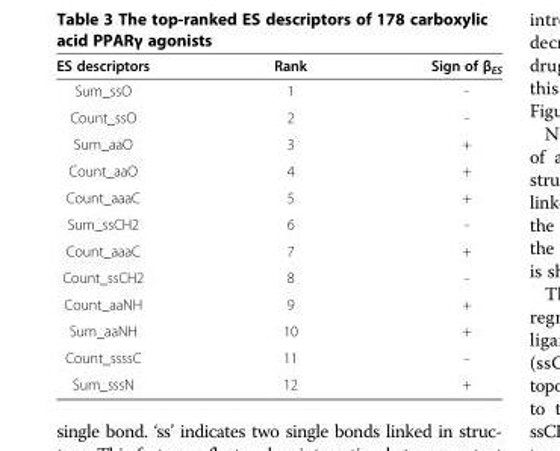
<table><thead><tr><td>ES descriptors</td><td>Rank</td><td>Sign of β<sub>ES</sub></td></tr></thead><tbody><tr><td>Sum_ssO</td><td>1</td><td>-</td></tr><tr><td>Count_ssO</td><td>2</td><td>-</td></tr><tr><td>Sum_aaO</td><td>3</td><td>+</td></tr><tr><td>Count_aaO</td><td>4</td><td>+</td></tr><tr><td>Count_aaaC</td><td>5</td><td>+</td></tr><tr><td>Sum_ssCH2</td><td>6</td><td>-</td></tr><tr><td>Count_aaaC</td><td>7</td><td>+</td></tr><tr><td>Count_ssCH2</td><td>8</td><td>-</td></tr><tr><td>Count_aaNH</td><td>9</td><td>+</td></tr><tr><td>Sum_aaNH</td><td>10</td><td>+</td></tr><tr><td>Count_ssssC</td><td>11</td><td>-</td></tr><tr><td>Sum_sssN</td><td>12</td><td>+</td></tr></tbody></table>